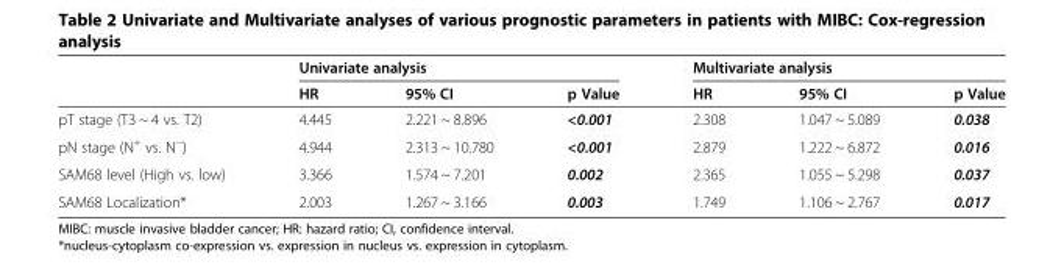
<table><thead><tr><td rowspan="2"></td><td colspan="3">Univariate analysis</td><td colspan="3">Multivariate analysis</td></tr><tr><td>HR</td><td>95% CI</td><td>p Value</td><td>HR</td><td>95% CI</td><td>p Value</td></tr></thead><tbody><tr><td>pT stage (T3 ~ 4 vs. T2)</td><td>4.445</td><td>2.221 ~ 8.896</td><td>&lt;0.001</td><td>2.308</td><td>1.047 ~ 5.089</td><td>0.038</td></tr><tr><td>pN stage (N<sup>+</sup> vs. N<sup>−</sup>)</td><td>4.944</td><td>2.313 ~ 10.780</td><td>&lt;0.001</td><td>2.879</td><td>1.222 ~ 6.872</td><td>0.016</td></tr><tr><td>SAM68 level (High vs. low)</td><td>3.366</td><td>1.574 ~ 7.201</td><td>0.002</td><td>2.365</td><td>1.055 ~ 5.298</td><td>0.037</td></tr><tr><td>SAM68 Localization*</td><td>2.003</td><td>1.267 ~ 3.166</td><td>0.003</td><td>1.749</td><td>1.106 ~ 2.767</td><td>0.017</td></tr></tbody></table>